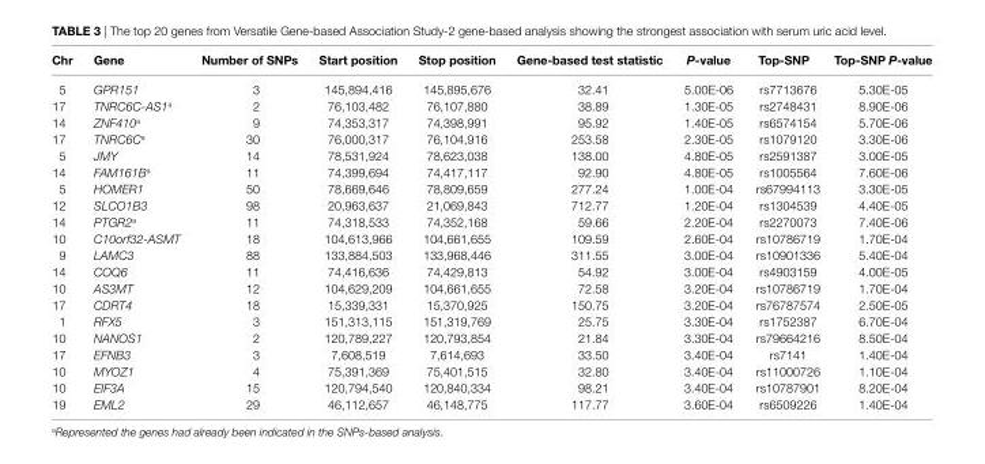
<table><thead><tr><td>chr</td><td>gene</td><td>number of snPs</td><td>start position</td><td>stop position</td><td>gene-based test statistic</td><td>P-value</td><td>Top-snP</td><td>Top-snP P-value</td></tr></thead><tbody><tr><td>5</td><td>GPR151</td><td>3</td><td>145,894,416</td><td>145,895,676</td><td>32.41</td><td>5.00E-06</td><td>rs7713676</td><td>5.30E-05</td></tr><tr><td>17</td><td>TNRC6C-AS1<sup>a</sup></td><td>2</td><td>76,103,482</td><td>76,107,880</td><td>38.89</td><td>1.30E-05</td><td>rs2748431</td><td>8.90E-06</td></tr><tr><td>14</td><td>ZNF410<sup>a</sup></td><td>9</td><td>74,353,317</td><td>74,398,991</td><td>95.92</td><td>1.40E-05</td><td>rs6574154</td><td>5.70E-06</td></tr><tr><td>17</td><td>TNRC6C<sup>a</sup></td><td>30</td><td>76,000,317</td><td>76,104,916</td><td>253.58</td><td>2.30E-05</td><td>rs1079120</td><td>3.30E-06</td></tr><tr><td>5</td><td>JMY</td><td>14</td><td>78,531,924</td><td>78,623,038</td><td>138.00</td><td>4.80E-05</td><td>rs2591387</td><td>3.00E-05</td></tr><tr><td>14</td><td>FAM161B<sup>a</sup></td><td>11</td><td>74,399,694</td><td>74,417,117</td><td>92.90</td><td>4.80E-05</td><td>rs1005564</td><td>7.60E-06</td></tr><tr><td>5</td><td>HOMER1</td><td>50</td><td>78,669,646</td><td>78,809,659</td><td>277.24</td><td>1.00E-04</td><td>rs67994113</td><td>3.30E-05</td></tr><tr><td>12</td><td>SLCO1B3</td><td>98</td><td>20,963,637</td><td>21,069,843</td><td>712.77</td><td>1.20E-04</td><td>rs1304539</td><td>4.40E-05</td></tr><tr><td>14</td><td>PTGR2<sup>a</sup></td><td>11</td><td>74,318,533</td><td>74,352,168</td><td>59.66</td><td>2.20E-04</td><td>rs2270073</td><td>7.40E-06</td></tr><tr><td>10</td><td>C10orf32-ASMT</td><td>18</td><td>104,613,966</td><td>104,661,655</td><td>109.59</td><td>2.60E-04</td><td>rs10786719</td><td>1.70E-04</td></tr><tr><td>9</td><td>LAMC3</td><td>88</td><td>133,884,503</td><td>133,968,446</td><td>311.55</td><td>3.00E-04</td><td>rs10901336</td><td>5.40E-04</td></tr><tr><td>14</td><td>COQ6</td><td>11</td><td>74,416,636</td><td>74,429,813</td><td>54.92</td><td>3.00E-04</td><td>rs4903159</td><td>4.00E-05</td></tr><tr><td>10</td><td>AS3MT</td><td>12</td><td>104,629,209</td><td>104,661,655</td><td>72.58</td><td>3.20E-04</td><td>rs10786719</td><td>1.70E-04</td></tr><tr><td>17</td><td>CDRT4</td><td>18</td><td>15,339,331</td><td>15,370,925</td><td>150.75</td><td>3.20E-04</td><td>rs76787574</td><td>2.50E-05</td></tr><tr><td>1</td><td>RFX5</td><td>3</td><td>151,313,115</td><td>151,319,769</td><td>25.75</td><td>3.30E-04</td><td>rs1752387</td><td>6.70E-04</td></tr><tr><td>10</td><td>NANOS1</td><td>2</td><td>120,789,227</td><td>120,793,854</td><td>21.84</td><td>3.30E-04</td><td>rs79664216</td><td>8.50E-04</td></tr><tr><td>17</td><td>EFNB3</td><td>3</td><td>7,608,519</td><td>7,614,693</td><td>33.50</td><td>3.40E-04</td><td>rs7141</td><td>1.40E-04</td></tr><tr><td>10</td><td>MYOZ1</td><td>4</td><td>75,391,369</td><td>75,401,515</td><td>32.80</td><td>3.40E-04</td><td>rs11000726</td><td>1.10E-04</td></tr><tr><td>10</td><td>EIF3A</td><td>15</td><td>120,794,540</td><td>120,840,334</td><td>98.21</td><td>3.40E-04</td><td>rs10787901</td><td>8.20E-04</td></tr><tr><td>19</td><td>EML2</td><td>29</td><td>46,112,657</td><td>46,148,775</td><td>117.77</td><td>3.60E-04</td><td>rs6509226</td><td>1.40E-04</td></tr></tbody></table>